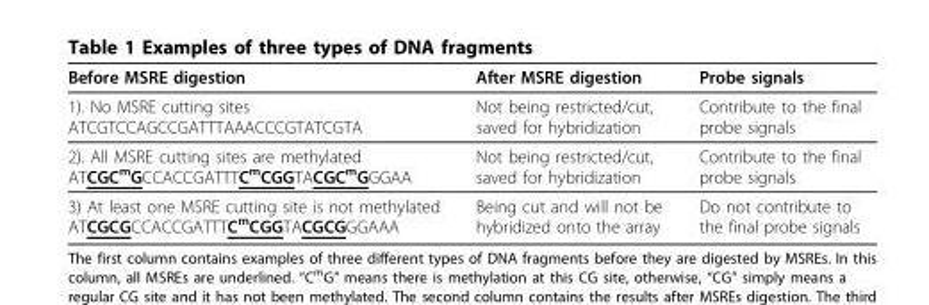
<table><thead><tr><td>Before MSRE digestion</td><td>After MSRE digestion</td><td>Probe signals</td></tr></thead><tbody><tr><td>1). No MSRE cutting sites ATCGTCCAGCCGATTTAAACCCGTATCGTA</td><td>Not being restricted/cut, saved for hybridization</td><td>Contribute to the final probe signals</td></tr><tr><td>2). All MSRE cutting sites are methylated ATCGC<sup>m</sup>GCCACCGATTTC<sup>m</sup>CGGTACGC<sup>m</sup>GGGAA</td><td>Not being restricted/cut, saved for hybridization</td><td>Contribute to the final probe signals</td></tr><tr><td>3) At least one MSRE cutting site is not methylated ATCGCGCCACCGATTTC<sup>m</sup>CGGTACGCGGGAAA</td><td>Being cut and will not be hybridized onto the array</td><td>Do not contribute to the final probe signals</td></tr></tbody></table>